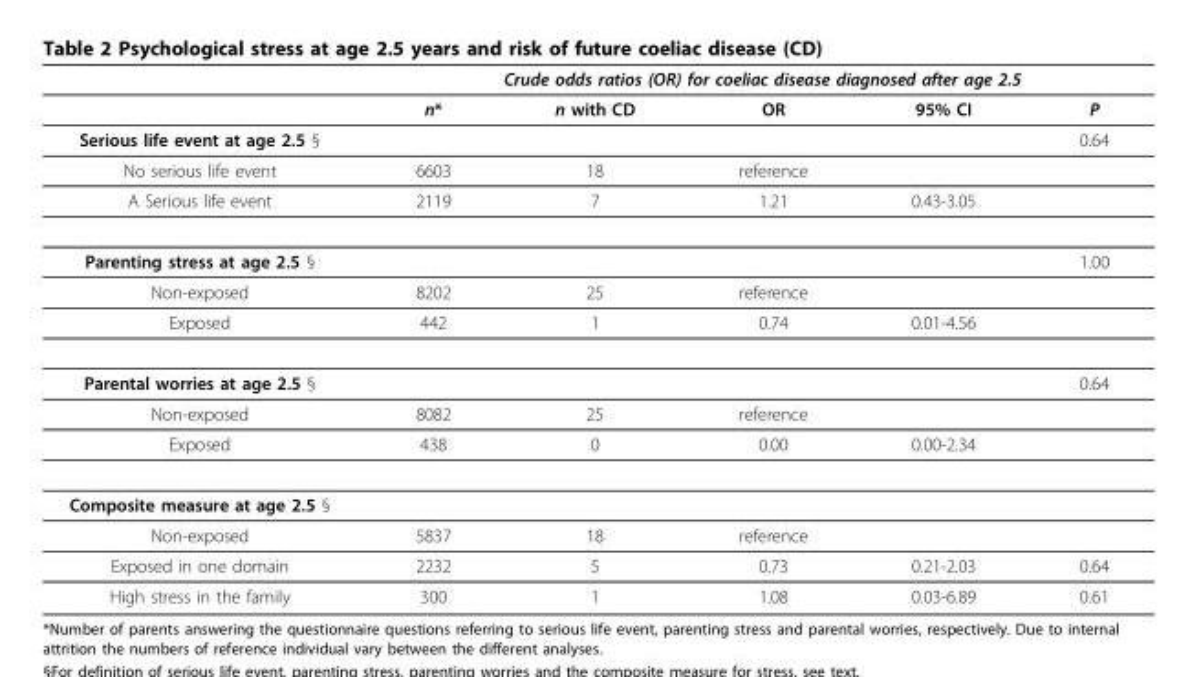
<table><thead><tr><td rowspan="2"></td><td colspan="5">Crude odds ratios (OR) for coeliac disease diagnosed after age 2.5</td></tr><tr><td>n*</td><td>n with CD</td><td>OR</td><td>95% CI</td><td>P</td></tr></thead><tbody><tr><td>Serious life event at age 2.5 §</td><td></td><td></td><td></td><td></td><td>0.64</td></tr><tr><td>No serious life event</td><td>6603</td><td>18</td><td>reference</td><td></td><td></td></tr><tr><td>A Serious life event</td><td>2119</td><td>7</td><td>1.21</td><td>0.43-3.05</td><td></td></tr><tr><td>Parenting stress at age 2.5 §</td><td></td><td></td><td></td><td></td><td>1.00</td></tr><tr><td>Non-exposed</td><td>8202</td><td>25</td><td>reference</td><td></td><td></td></tr><tr><td>Exposed</td><td>442</td><td>1</td><td>0.74</td><td>0.01-4.56</td><td></td></tr><tr><td>Parental worries at age 2.5 §</td><td></td><td></td><td></td><td></td><td>0.64</td></tr><tr><td>Non-exposed</td><td>8082</td><td>25</td><td>reference</td><td></td><td></td></tr><tr><td>Exposed</td><td>438</td><td>0</td><td>0.00</td><td>0.00-2.34</td><td></td></tr><tr><td colspan="6">Composite measure at age 2.5 §</td></tr><tr><td>Non-exposed</td><td>5837</td><td>18</td><td>reference</td><td></td><td></td></tr><tr><td>Exposed in one domain</td><td>2232</td><td>5</td><td>0.73</td><td>0.21-2.03</td><td>0.64</td></tr><tr><td>High stress in the family</td><td>300</td><td>1</td><td>1.08</td><td>0.03-6.89</td><td>0.61</td></tr></tbody></table>